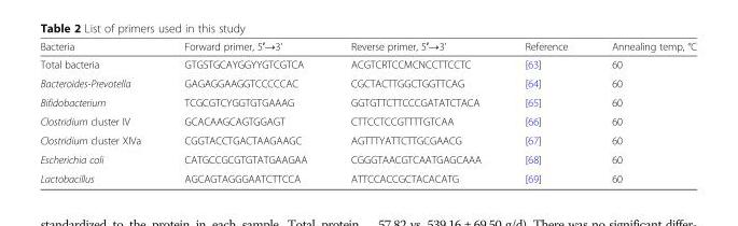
<table><thead><tr><td>Bacteria</td><td>Forward primer, 5′→3’</td><td>Reverse primer, 5′→3’</td><td>Reference</td><td>Annealing temp, °C</td></tr></thead><tbody><tr><td>Total bacteria</td><td>GTGSTGCAYGGYYGTCGTCA</td><td>ACGTCRTCCMCNCCTTCCTC</td><td>[63]</td><td>60</td></tr><tr><td>Bacteroides-Prevotella</td><td>GAGAGGAAGGTCCCCCAC</td><td>CGCTACTTGGCTGGTTCAG</td><td>[64]</td><td>60</td></tr><tr><td>Bifidobacterium</td><td>TCGCGTCYGGTGTGAAAG</td><td>GGTGTTCTTCCCGATATCTACA</td><td>[65]</td><td>60</td></tr><tr><td>Clostridium cluster IV</td><td>GCACAAGCAGTGGAGT</td><td>CTTCCTCCGTTTTGTCAA</td><td>[66]</td><td>60</td></tr><tr><td>Clostridium cluster XIVa</td><td>CGGTACCTGACTAAGAAGC</td><td>AGTTTYATTCTTGCGAACG</td><td>[67]</td><td>60</td></tr><tr><td>Escherichia coli</td><td>CATGCCGCGTGTATGAAGAA</td><td>CGGGTAACGTCAATGAGCAAA</td><td>[68]</td><td>60</td></tr><tr><td>Lactobacillus</td><td>AGCAGTAGGGAATCTTCCA</td><td>ATTCCACCGCTACACATG</td><td>[69]</td><td>60</td></tr></tbody></table>